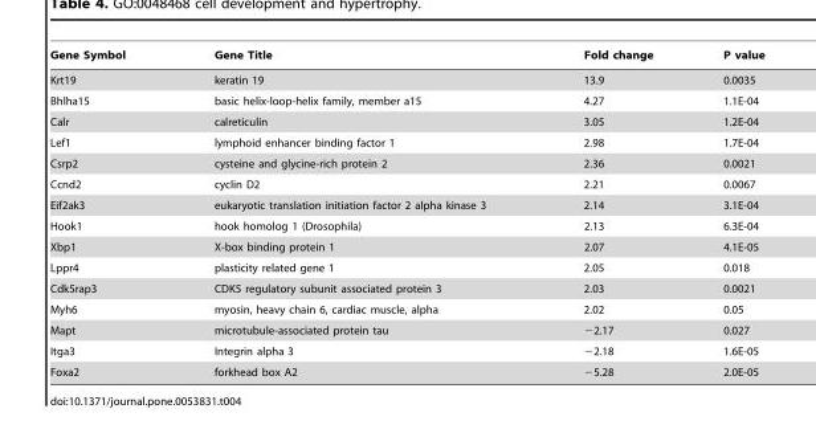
<table><thead><tr><td>Gene Symbol</td><td>Gene Title</td><td>Fold change</td><td>P value</td></tr></thead><tbody><tr><td>Krt19</td><td>keratin 19</td><td>13.9</td><td>0.0035</td></tr><tr><td>Bhlha15</td><td>basic helix-loop-helix family, member a15</td><td>4.27</td><td>1.1E-04</td></tr><tr><td>Calr</td><td>calreticulin</td><td>3.05</td><td>1.2E-04</td></tr><tr><td>Lef1</td><td>lymphoid enhancer binding factor 1</td><td>2.98</td><td>1.7E-04</td></tr><tr><td>Csrp2</td><td>cysteine and glycine-rich protein 2</td><td>2.36</td><td>0.0021</td></tr><tr><td>Ccnd2</td><td>cyclin D2</td><td>2.21</td><td>0.0067</td></tr><tr><td>Eif2ak3</td><td>eukaryotic translation initiation factor 2 alpha kinase 3</td><td>2.14</td><td>3.1E-04</td></tr><tr><td>Hook1</td><td>hook homolog 1 (Drosophila)</td><td>2.13</td><td>6.3E-04</td></tr><tr><td>Xbp1</td><td>X-box binding protein 1</td><td>2.07</td><td>4.1E-05</td></tr><tr><td>Lppr4</td><td>plasticity related gene 1</td><td>2.05</td><td>0.018</td></tr><tr><td>Cdk5rap3</td><td>CDK5 regulatory subunit associated protein 3</td><td>2.03</td><td>0.0021</td></tr><tr><td>Myh6</td><td>myosin, heavy chain 6, cardiac muscle, alpha</td><td>2.02</td><td>0.05</td></tr><tr><td>Mapt</td><td>microtubule-associated protein tau</td><td>−2.17</td><td>0.027</td></tr><tr><td>Itga3</td><td>Integrin alpha 3</td><td>−2.18</td><td>1.6E-05</td></tr><tr><td>Foxa2</td><td>forkhead box A2</td><td>−5.28</td><td>2.0E-05</td></tr></tbody></table>